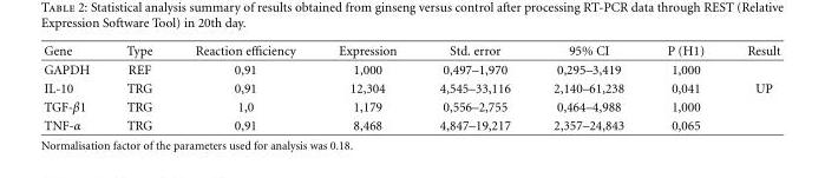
<table><thead><tr><td>Gene</td><td>Type</td><td>Reaction efficiency</td><td>Expression</td><td>Std. error</td><td>95% CI</td><td>P (H1)</td><td>Result</td></tr></thead><tbody><tr><td>GAPDH</td><td>REF</td><td>0,91</td><td>1,000</td><td>0,497–1,970</td><td>0,295–3,419</td><td>1,000</td><td></td></tr><tr><td>IL-10</td><td>TRG</td><td>0,91</td><td>12,304</td><td>4,545–33,116</td><td>2,140–61,238</td><td>0,041</td><td>UP</td></tr><tr><td>TGF-β1</td><td>TRG</td><td>1,0</td><td>1,179</td><td>0,556–2,755</td><td>0,464–4,988</td><td>1,000</td><td></td></tr><tr><td>TNF-α</td><td>TRG</td><td>0,91</td><td>8,468</td><td>4,847–19,217</td><td>2,357–24,843</td><td>0,065</td><td></td></tr></tbody></table>